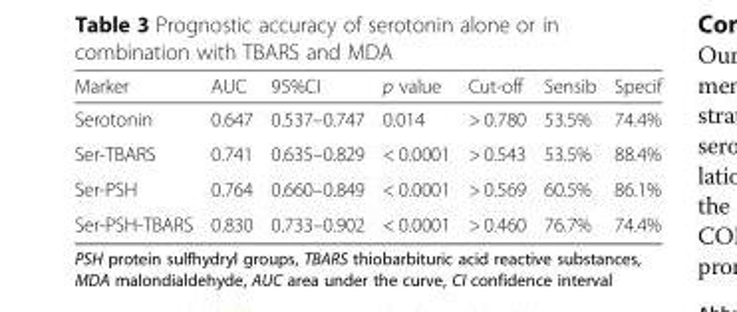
<table><thead><tr><td>Marker</td><td>AUC</td><td>95%CI</td><td>p value</td><td>Cut-off</td><td>Sensib</td><td>Specif</td></tr></thead><tbody><tr><td>Serotonin</td><td>0.647</td><td>0.537–0.747</td><td>0.014</td><td>&gt; 0.780</td><td>53.5%</td><td>74.4%</td></tr><tr><td>Ser-TBARS</td><td>0.741</td><td>0.635–0.829</td><td>&lt; 0.0001</td><td>&gt; 0.543</td><td>53.5%</td><td>88.4%</td></tr><tr><td>Ser-PSH</td><td>0.764</td><td>0.660–0.849</td><td>&lt; 0.0001</td><td>&gt; 0.569</td><td>60.5%</td><td>86.1%</td></tr><tr><td>Ser-PSH-TBARS</td><td>0.830</td><td>0.733–0.902</td><td>&lt; 0.0001</td><td>&gt; 0.460</td><td>76.7%</td><td>74.4%</td></tr></tbody></table>